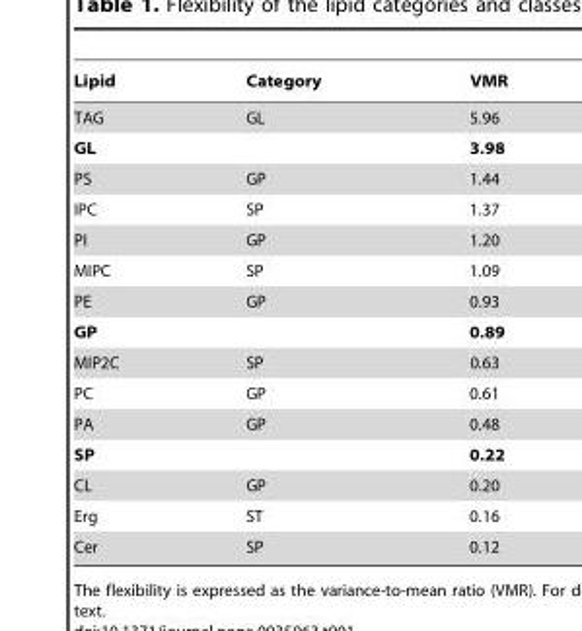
<table><thead><tr><td>Lipid</td><td>Category</td><td>VMR</td></tr></thead><tbody><tr><td>TAG</td><td>GL</td><td>5.96</td></tr><tr><td>GL</td><td></td><td>3.98</td></tr><tr><td>PS</td><td>GP</td><td>1.44</td></tr><tr><td>IPC</td><td>SP</td><td>1.37</td></tr><tr><td>PI</td><td>GP</td><td>1.20</td></tr><tr><td>MIPC</td><td>SP</td><td>1.09</td></tr><tr><td>PE</td><td>GP</td><td>0.93</td></tr><tr><td>GP</td><td></td><td>0.89</td></tr><tr><td>MIP2C</td><td>SP</td><td>0.63</td></tr><tr><td>PC</td><td>GP</td><td>0.61</td></tr><tr><td>PA</td><td>GP</td><td>0.48</td></tr><tr><td>SP</td><td></td><td>0.22</td></tr><tr><td>CL</td><td>GP</td><td>0.20</td></tr><tr><td>Erg</td><td>ST</td><td>0.16</td></tr><tr><td>Cer</td><td>SP</td><td>0.12</td></tr></tbody></table>